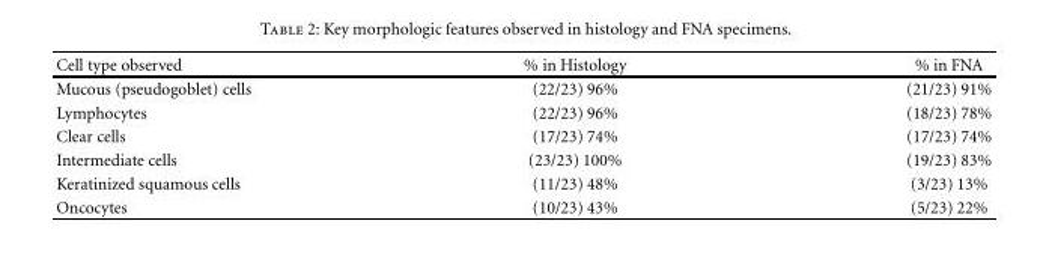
<table><thead><tr><td>Cell type observed</td><td>% in Histology</td><td>% in FNA</td></tr></thead><tbody><tr><td>Mucous (pseudogoblet) cells</td><td>(22/23) 96%</td><td>(21/23) 91%</td></tr><tr><td>Lymphocytes</td><td>(22/23) 96%</td><td>(18/23) 78%</td></tr><tr><td>Clear cells</td><td>(17/23) 74%</td><td>(17/23) 74%</td></tr><tr><td>Intermediate cells</td><td>(23/23) 100%</td><td>(19/23) 83%</td></tr><tr><td>Keratinized squamous cells</td><td>(11/23) 48%</td><td>(3/23) 13%</td></tr><tr><td>Oncocytes</td><td>(10/23) 43%</td><td>(5/23) 22%</td></tr></tbody></table>